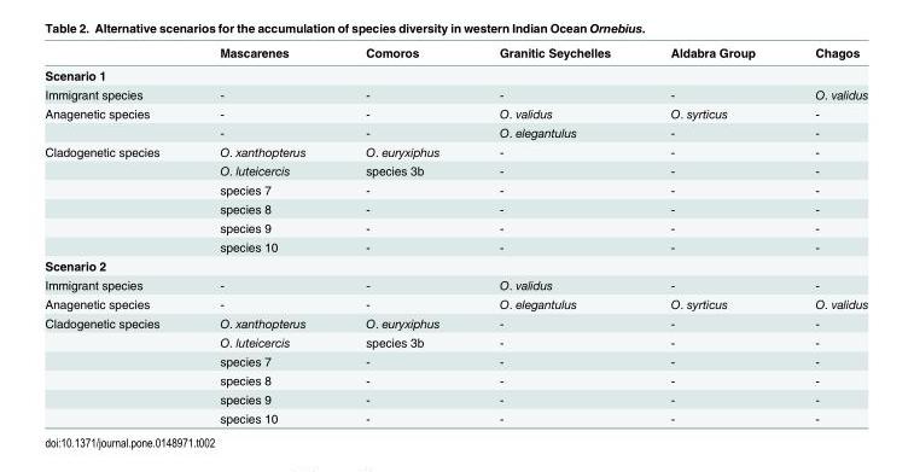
<table><thead><tr><td></td><td>Mascarenes</td><td>Comoros</td><td>Granitic Seychelles</td><td>Aldabra Group</td><td>Chagos</td></tr></thead><tbody><tr><td colspan="6">Scenario 1</td></tr><tr><td>Immigrant species</td><td>-</td><td>-</td><td>-</td><td>-</td><td>O. validus</td></tr><tr><td rowspan="2">Anagenetic species</td><td>-</td><td>-</td><td>O. validus</td><td>O. syrticus</td><td>-</td></tr><tr><td>-</td><td>-</td><td>O. elegantulus</td><td>-</td><td>-</td></tr><tr><td rowspan="6">Cladogenetic species</td><td>O. xanthopterus</td><td>O. euryxiphus</td><td>-</td><td>-</td><td>-</td></tr><tr><td>O. luteicercis</td><td>species 3b</td><td>-</td><td>-</td><td>-</td></tr><tr><td>species 7</td><td>-</td><td>-</td><td>-</td><td>-</td></tr><tr><td>species 8</td><td>-</td><td>-</td><td>-</td><td>-</td></tr><tr><td>species 9</td><td>-</td><td>-</td><td>-</td><td>-</td></tr><tr><td>species 10</td><td>-</td><td>-</td><td>-</td><td>-</td></tr><tr><td colspan="6">Scenario 2</td></tr><tr><td>Immigrant species</td><td>-</td><td>-</td><td>O. validus</td><td>-</td><td>-</td></tr><tr><td>Anagenetic species</td><td>-</td><td>-</td><td>O. elegantulus</td><td>O. syrticus</td><td>O. validus</td></tr><tr><td rowspan="6">Cladogenetic species</td><td>O. xanthopterus</td><td>O. euryxiphus</td><td>-</td><td>-</td><td>-</td></tr><tr><td>O. luteicercis</td><td>species 3b</td><td>-</td><td>-</td><td>-</td></tr><tr><td>species 7</td><td>-</td><td>-</td><td>-</td><td>-</td></tr><tr><td>species 8</td><td>-</td><td>-</td><td>-</td><td>-</td></tr><tr><td>species 9</td><td>-</td><td>-</td><td>-</td><td>-</td></tr><tr><td>species 10</td><td>-</td><td>-</td><td>-</td><td>-</td></tr></tbody></table>